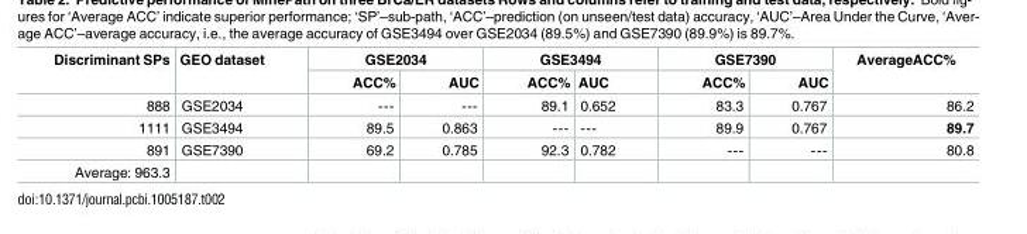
<table><thead><tr><td rowspan="2">Discriminant SPs</td><td rowspan="2">GEO dataset</td><td colspan="2">GSE2034</td><td colspan="2">GSE3494</td><td colspan="2">GSE7390</td><td rowspan="2">AverageACC%</td></tr><tr><td>ACC%</td><td>AUC</td><td>ACC%</td><td>AUC</td><td>ACC%</td><td>AUC</td></tr></thead><tbody><tr><td>888</td><td>GSE2034</td><td>---</td><td>---</td><td>89.1</td><td>0.652</td><td>83.3</td><td>0.767</td><td>86.2</td></tr><tr><td>1111</td><td>GSE3494</td><td>89.5</td><td>0.863</td><td>---</td><td>---</td><td>89.9</td><td>0.767</td><td>89.7</td></tr><tr><td>891</td><td>GSE7390</td><td>69.2</td><td>0.785</td><td>92.3</td><td>0.782</td><td>---</td><td>---</td><td>80.8</td></tr><tr><td>Average: 963.3</td><td></td><td></td><td></td><td></td><td></td><td></td><td></td><td></td></tr></tbody></table>